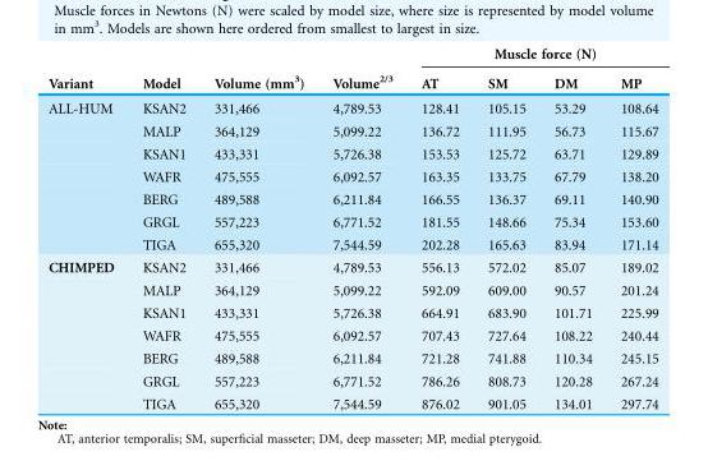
<table><thead><tr><td rowspan="2">Variant</td><td rowspan="2">Model</td><td rowspan="2">Volume (mm<sup>3</sup>)</td><td rowspan="2">Volume<sup>2/3</sup></td><td colspan="4">Muscle force (N)</td></tr><tr><td>AT</td><td>SM</td><td>DM</td><td>MP</td></tr></thead><tbody><tr><td rowspan="7">ALL-HUM</td><td>KSAN2</td><td>331,466</td><td>4,789.53</td><td>128.41</td><td>105.15</td><td>53.29</td><td>108.64</td></tr><tr><td>MALP</td><td>364,129</td><td>5,099.22</td><td>136.72</td><td>111.95</td><td>56.73</td><td>115.67</td></tr><tr><td>KSAN1</td><td>433,331</td><td>5,726.38</td><td>153.53</td><td>125.72</td><td>63.71</td><td>129.89</td></tr><tr><td>WAFR</td><td>475,555</td><td>6,092.57</td><td>163.35</td><td>133.75</td><td>67.79</td><td>138.20</td></tr><tr><td>BERG</td><td>489,588</td><td>6,211.84</td><td>166.55</td><td>136.37</td><td>69.11</td><td>140.90</td></tr><tr><td>GRGL</td><td>557,223</td><td>6,771.52</td><td>181.55</td><td>148.66</td><td>75.34</td><td>153.60</td></tr><tr><td>TIGA</td><td>655,320</td><td>7,544.59</td><td>202.28</td><td>165.63</td><td>83.94</td><td>171.14</td></tr><tr><td rowspan="7">CHIMPED</td><td>KSAN2</td><td>331,466</td><td>4,789.53</td><td>556.13</td><td>572.02</td><td>85.07</td><td>189.02</td></tr><tr><td>MALP</td><td>364,129</td><td>5,099.22</td><td>592.09</td><td>609.00</td><td>90.57</td><td>201.24</td></tr><tr><td>KSAN1</td><td>433,331</td><td>5,726.38</td><td>664.91</td><td>683.90</td><td>101.71</td><td>225.99</td></tr><tr><td>WAFR</td><td>475,555</td><td>6,092.57</td><td>707.43</td><td>727.64</td><td>108.22</td><td>240.44</td></tr><tr><td>BERG</td><td>489,588</td><td>6,211.84</td><td>721.28</td><td>741.88</td><td>110.34</td><td>245.15</td></tr><tr><td>GRGL</td><td>557,223</td><td>6,771.52</td><td>786.26</td><td>808.73</td><td>120.28</td><td>267.24</td></tr><tr><td>TIGA</td><td>655,320</td><td>7,544.59</td><td>876.02</td><td>901.05</td><td>134.01</td><td>297.74</td></tr></tbody></table>